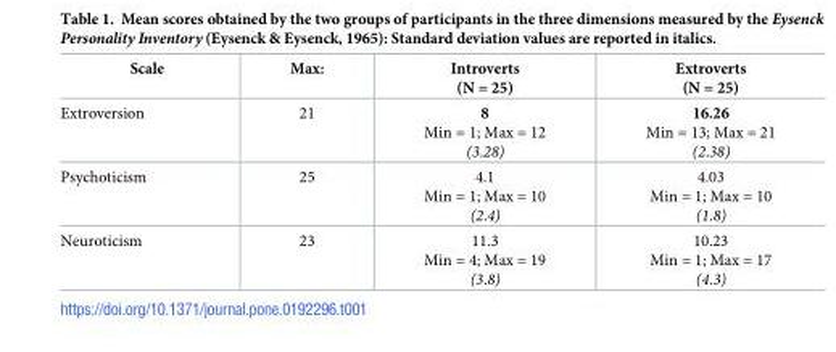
<table><thead><tr><td>Scale</td><td>Max:</td><td>Introverts (N = 25)</td><td>Extroverts (N = 25)</td></tr></thead><tbody><tr><td>Extroversion</td><td>21</td><td>8 Min = 1; Max = 12 (3.28)</td><td>16.26 Min = 13; Max = 21 (2.38)</td></tr><tr><td>Psychoticism</td><td>25</td><td>4.1 Min = 1; Max = 10 (2.4)</td><td>4.03 Min = 1; Max = 10 (1.8)</td></tr><tr><td>Neuroticism</td><td>23</td><td>11.3 Min = 4; Max = 19 (3.8)</td><td>10.23 Min = 1; Max = 17 (4.3)</td></tr></tbody></table>